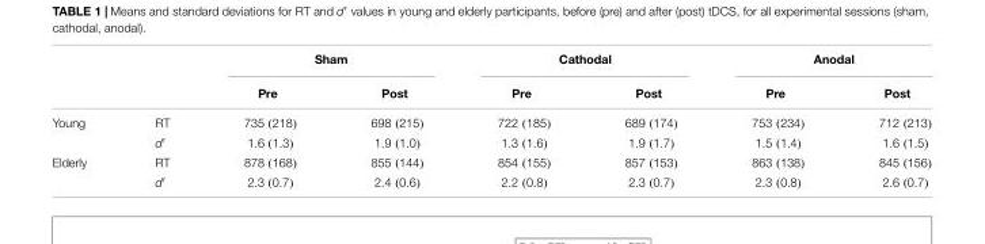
<table><thead><tr><td rowspan="2"></td><td rowspan="2"></td><td colspan="2">Sham</td><td colspan="2">Cathodal</td><td colspan="2">Anodal</td></tr><tr><td>Pre</td><td>Post</td><td>Pre</td><td>Post</td><td>Pre</td><td>Post</td></tr></thead><tbody><tr><td rowspan="2">Young</td><td>RT</td><td>735 (218)</td><td>698 (215)</td><td>722 (185)</td><td>689 (174)</td><td>753 (234)</td><td>712 (213)</td></tr><tr><td>d′</td><td>1.6 (1.3)</td><td>1.9 (1.0)</td><td>1.3 (1.6)</td><td>1.9 (1.7)</td><td>1.5 (1.4)</td><td>1.6 (1.5)</td></tr><tr><td rowspan="2">Elderly</td><td>RT</td><td>878 (168)</td><td>855 (144)</td><td>854 (155)</td><td>857 (153)</td><td>863 (138)</td><td>845 (156)</td></tr><tr><td>d′</td><td>2.3 (0.7)</td><td>2.4 (0.6)</td><td>2.2 (0.8)</td><td>2.3 (0.7)</td><td>2.3 (0.8)</td><td>2.6 (0.7)</td></tr></tbody></table>